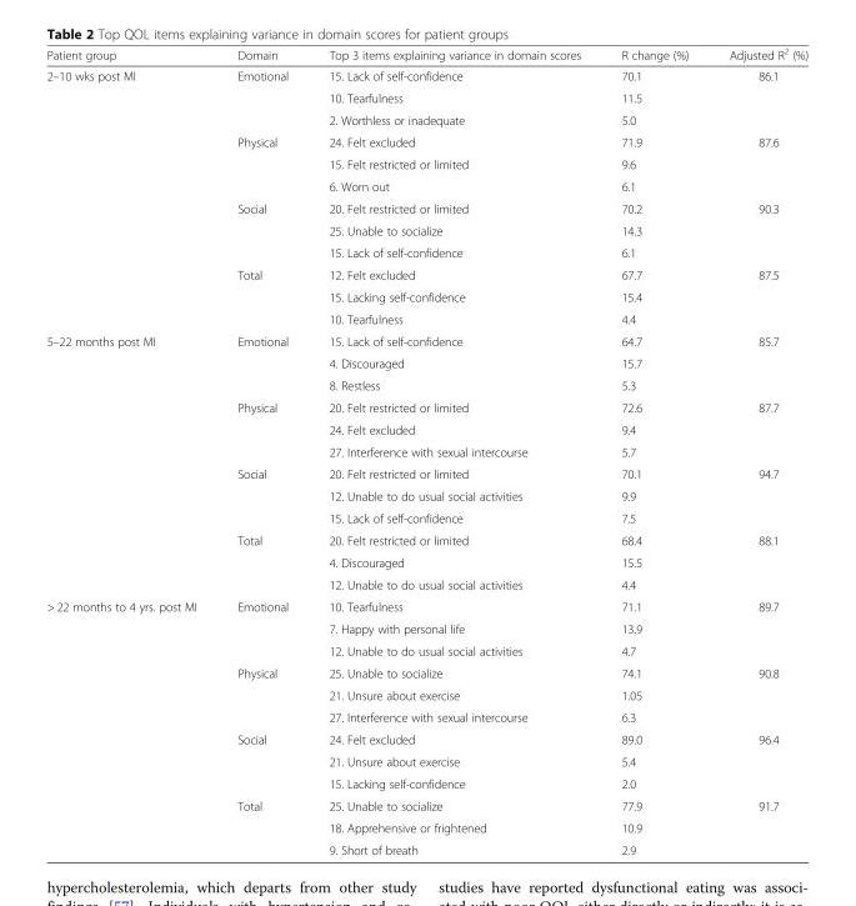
<table><thead><tr><td>Patient group</td><td>Domain</td><td>Top 3 items explaining variance in domain scores</td><td>R change (%)</td><td>Adjusted R<sup>2</sup> (%)</td></tr></thead><tbody><tr><td rowspan="12">2–10 wks post MI</td><td rowspan="3">Emotional</td><td>15. Lack of self-confidence</td><td>70.1</td><td rowspan="3">86.1</td></tr><tr><td>10. Tearfulness</td><td>11.5</td></tr><tr><td>2. Worthless or inadequate</td><td>5.0</td></tr><tr><td rowspan="3">Physical</td><td>24. Felt excluded</td><td>71.9</td><td rowspan="3">87.6</td></tr><tr><td>15. Felt restricted or limited</td><td>9.6</td></tr><tr><td>6. Worn out</td><td>6.1</td></tr><tr><td rowspan="3">Social</td><td>20. Felt restricted or limited</td><td>70.2</td><td rowspan="3">90.3</td></tr><tr><td>25. Unable to socialize</td><td>14.3</td></tr><tr><td>15. Lack of self-confidence</td><td>6.1</td></tr><tr><td rowspan="3">Total</td><td>12. Felt excluded</td><td>67.7</td><td rowspan="3">87.5</td></tr><tr><td>15. Lacking self-confidence</td><td>15.4</td></tr><tr><td>10. Tearfulness</td><td>4.4</td></tr><tr><td rowspan="12">5–22 months post MI</td><td rowspan="3">Emotional</td><td>15. Lack of self-confidence</td><td>64.7</td><td rowspan="3">85.7</td></tr><tr><td>4. Discouraged</td><td>15.7</td></tr><tr><td>8. Restless</td><td>5.3</td></tr><tr><td rowspan="3">Physical</td><td>20. Felt restricted or limited</td><td>72.6</td><td rowspan="3">87.7</td></tr><tr><td>24. Felt excluded</td><td>9.4</td></tr><tr><td>27. Interference with sexual intercourse</td><td>5.7</td></tr><tr><td rowspan="3">Social</td><td>20. Felt restricted or limited</td><td>70.1</td><td rowspan="3">94.7</td></tr><tr><td>12. Unable to do usual social activities</td><td>9.9</td></tr><tr><td>15. Lack of self-confidence</td><td>7.5</td></tr><tr><td rowspan="3">Total</td><td>20. Felt restricted or limited</td><td>68.4</td><td>88.1</td></tr><tr><td>4. Discouraged</td><td>15.5</td><td rowspan="2"></td></tr><tr><td>12. Unable to do usual social activities</td><td>4.4</td></tr><tr><td rowspan="12">&gt; 22 months to 4 yrs. post MI</td><td rowspan="3">Emotional</td><td>10. Tearfulness</td><td>71.1</td><td rowspan="3">89.7</td></tr><tr><td>7. Happy with personal life</td><td>13.9</td></tr><tr><td>12. Unable to do usual social activities</td><td>4.7</td></tr><tr><td rowspan="3">Physical</td><td>25. Unable to socialize</td><td>74.1</td><td rowspan="3">90.8</td></tr><tr><td>21. Unsure about exercise</td><td>1.05</td></tr><tr><td>27. Interference with sexual intercourse</td><td>6.3</td></tr><tr><td rowspan="3">Social</td><td>24. Felt excluded</td><td>89.0</td><td rowspan="3">96.4</td></tr><tr><td>21. Unsure about exercise</td><td>5.4</td></tr><tr><td>15. Lacking self-confidence</td><td>2.0</td></tr><tr><td rowspan="3">Total</td><td>25. Unable to socialize</td><td>77.9</td><td rowspan="3">91.7</td></tr><tr><td>18. Apprehensive or frightened</td><td>10.9</td></tr><tr><td>9. Short of breath</td><td>2.9</td></tr></tbody></table>